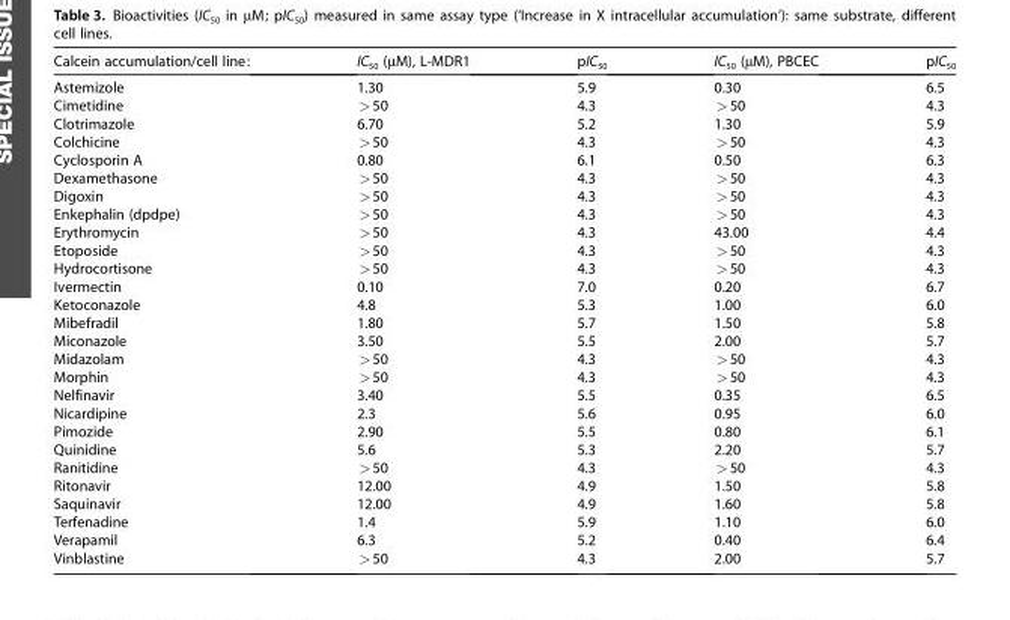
<table><thead><tr><td>Calcein accumulation/cell line:</td><td>IC<sub>50</sub> (µM), L-MDR1</td><td>pIC<sub>50</sub></td><td>IC<sub>50</sub> (µM), PBCEC</td><td>pIC<sub>50</sub></td></tr></thead><tbody><tr><td>Astemizole</td><td>1.30</td><td>5.9</td><td>0.30</td><td>6.5</td></tr><tr><td>Cimetidine</td><td>&gt;50</td><td>4.3</td><td>&gt;50</td><td>4.3</td></tr><tr><td>Clotrimazole</td><td>6.70</td><td>5.2</td><td>1.30</td><td>5.9</td></tr><tr><td>Colchicine</td><td>&gt;50</td><td>4.3</td><td>&gt;50</td><td>4.3</td></tr><tr><td>Cyclosporin A</td><td>0.80</td><td>6.1</td><td>0.50</td><td>6.3</td></tr><tr><td>Dexamethasone</td><td>&gt;50</td><td>4.3</td><td>&gt;50</td><td>4.3</td></tr><tr><td>Digoxin</td><td>&gt;50</td><td>4.3</td><td>&gt;50</td><td>4.3</td></tr><tr><td>Enkephalin (dpdpe)</td><td>&gt;50</td><td>4.3</td><td>&gt;50</td><td>4.3</td></tr><tr><td>Erythromycin</td><td>&gt;50</td><td>4.3</td><td>43.00</td><td>4.4</td></tr><tr><td>Etoposide</td><td>&gt;50</td><td>4.3</td><td>&gt;50</td><td>4.3</td></tr><tr><td>Hydrocortisone</td><td>&gt;50</td><td>4.3</td><td>&gt;50</td><td>4.3</td></tr><tr><td>Ivermectin</td><td>0.10</td><td>7.0</td><td>0.20</td><td>6.7</td></tr><tr><td>Ketoconazole</td><td>4.8</td><td>5.3</td><td>1.00</td><td>6.0</td></tr><tr><td>Mibefradil</td><td>1.80</td><td>5.7</td><td>1.50</td><td>5.8</td></tr><tr><td>Miconazole</td><td>3.50</td><td>5.5</td><td>2.00</td><td>5.7</td></tr><tr><td>Midazolam</td><td>&gt;50</td><td>4.3</td><td>&gt;50</td><td>4.3</td></tr><tr><td>Morphin</td><td>&gt;50</td><td>4.3</td><td>&gt;50</td><td>4.3</td></tr><tr><td>Nelfinavir</td><td>3.40</td><td>5.5</td><td>0.35</td><td>6.5</td></tr><tr><td>Nicardipine</td><td>2.3</td><td>5.6</td><td>0.95</td><td>6.0</td></tr><tr><td>Pimozide</td><td>2.90</td><td>5.5</td><td>0.80</td><td>6.1</td></tr><tr><td>Quinidine</td><td>5.6</td><td>5.3</td><td>2.20</td><td>5.7</td></tr><tr><td>Ranitidine</td><td>&gt;50</td><td>4.3</td><td>&gt;50</td><td>4.3</td></tr><tr><td>Ritonavir</td><td>12.00</td><td>4.9</td><td>1.50</td><td>5.8</td></tr><tr><td>Saquinavir</td><td>12.00</td><td>4.9</td><td>1.60</td><td>5.8</td></tr><tr><td>Terfenadine</td><td>1.4</td><td>5.9</td><td>1.10</td><td>6.0</td></tr><tr><td>Verapamil</td><td>6.3</td><td>5.2</td><td>0.40</td><td>6.4</td></tr><tr><td>Vinblastine</td><td>&gt;50</td><td>4.3</td><td>2.00</td><td>5.7</td></tr></tbody></table>